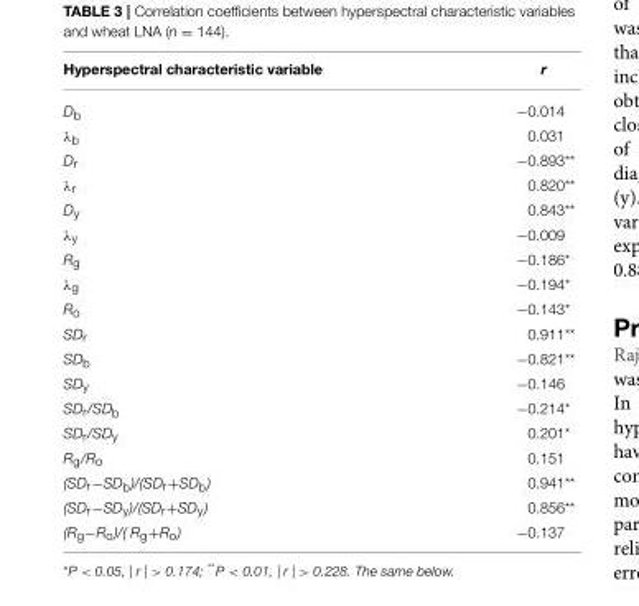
<table><thead><tr><td>Hyperspectral characteristic variable</td><td>r</td></tr></thead><tbody><tr><td>D<sub>b</sub></td><td>−0.014</td></tr><tr><td>λ<sub>b</sub></td><td>0.031</td></tr><tr><td>D<sub>r</sub></td><td>−0.893**</td></tr><tr><td>λ<sub>r</sub></td><td>0.820**</td></tr><tr><td>D<sub>y</sub></td><td>0.843**</td></tr><tr><td>λ<sub>y</sub></td><td>−0.009</td></tr><tr><td>R<sub>g</sub></td><td>−0.186*</td></tr><tr><td>λ<sub>g</sub></td><td>−0.194*</td></tr><tr><td>R<sub>o</sub></td><td>−0.143*</td></tr><tr><td>SD<sub>r</sub></td><td>0.911**</td></tr><tr><td>SD<sub>b</sub></td><td>−0.821**</td></tr><tr><td>SD<sub>y</sub></td><td>−0.146</td></tr><tr><td>SD<sub>r</sub>/SD<sub>b</sub></td><td>−0.214*</td></tr><tr><td>SD<sub>r</sub>/SD<sub>y</sub></td><td>0.201*</td></tr><tr><td>R<sub>g</sub>/R<sub>o</sub></td><td>0.151</td></tr><tr><td>(SD<sub>r</sub>−SD<sub>b</sub>)/(SD<sub>r</sub>+SD<sub>b</sub>)</td><td>0.941**</td></tr><tr><td>(SD<sub>r</sub>−SD<sub>y</sub>)/(SD<sub>r</sub>+SD<sub>y</sub>)</td><td>0.856**</td></tr><tr><td>(R<sub>g</sub>−R<sub>o</sub>)/( R<sub>g</sub>+R<sub>o</sub>)</td><td>−0.137</td></tr></tbody></table>